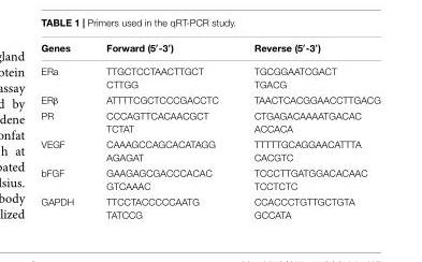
<table><thead><tr><td>Genes</td><td>Forward (5′-3′)</td><td>Reverse (5′-3′)</td></tr></thead><tbody><tr><td>ERa</td><td>TTGCTCCTAACTTGCT CTTGG</td><td>TGCGGAATCGACT TGACG</td></tr><tr><td>ERβ</td><td>ATTTTCGCTCCCGACCTC</td><td>TAACTCACGGAACCTTGACG</td></tr><tr><td>PR</td><td>CCCAGTTCACAACGCT TCTAT</td><td>CTGAGACAAAATGACAC ACCACA</td></tr><tr><td>VEGF</td><td>CAAAGCCAGCACATAGG AGAGAT</td><td>TTTTTGCAGGAACATTTA CACGTC</td></tr><tr><td>bFGF</td><td>GAAGAGCGACCCACAC GTCAAAC</td><td>TCCCTTGATGGACACAAC TCCTCTC</td></tr><tr><td>GAPDH</td><td>TTCCTACCCCCAATG TATCCG</td><td>CCACCCTGTTGCTGTA GCCATA</td></tr></tbody></table>